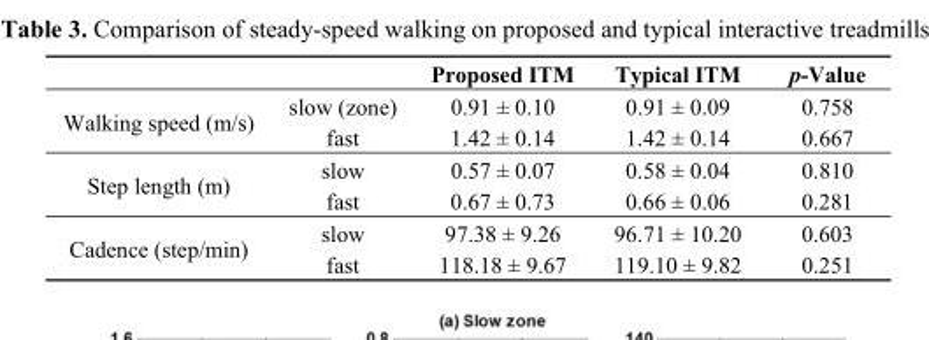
<table><thead><tr><td></td><td></td><td>Proposed ITM</td><td>Typical ITM</td><td>p-Value</td></tr></thead><tbody><tr><td rowspan="2">Walking speed (m/s)</td><td>slow (zone)</td><td>0.91 ± 0.10</td><td>0.91 ± 0.09</td><td>0.758</td></tr><tr><td>fast</td><td>1.42 ± 0.14</td><td>1.42 ± 0.14</td><td>0.667</td></tr><tr><td rowspan="2">Step length (m)</td><td>slow</td><td>0.57 ± 0.07</td><td>0.58 ± 0.04</td><td>0.810</td></tr><tr><td>fast</td><td>0.67 ± 0.73</td><td>0.66 ± 0.06</td><td>0.281</td></tr><tr><td rowspan="2">Cadence (step/min)</td><td>slow</td><td>97.38 ± 9.26</td><td>96.71 ± 10.20</td><td>0.603</td></tr><tr><td>fast</td><td>118.18 ± 9.67</td><td>119.10 ± 9.82</td><td>0.251</td></tr></tbody></table>